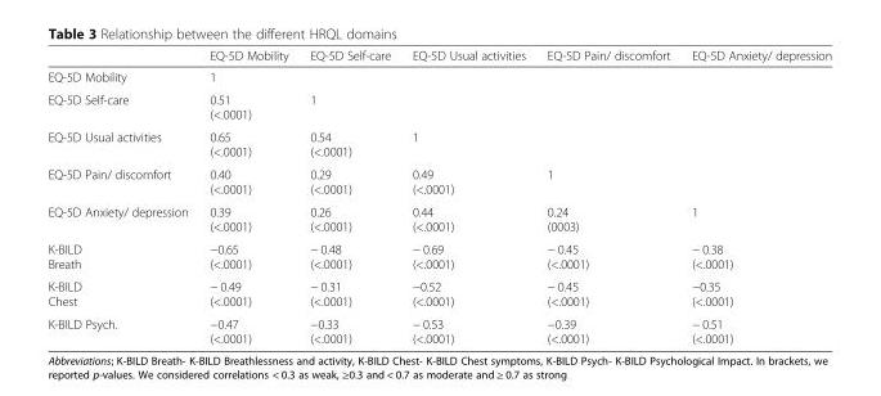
<table><thead><tr><td></td><td>EQ-5D Mobility</td><td>EQ-5D Self-care</td><td>EQ-5D Usual activities</td><td>EQ-5D Pain/ discomfort</td><td>EQ-5D Anxiety/ depression</td></tr></thead><tbody><tr><td>EQ-5D Mobility</td><td>1</td><td colspan="4"></td></tr><tr><td>EQ-5D Self-care</td><td>0.51 (&lt;.0001)</td><td>1</td><td colspan="3"></td></tr><tr><td>EQ-5D Usual activities</td><td>0.65 (&lt;.0001)</td><td>0.54 (&lt;.0001)</td><td>1</td><td colspan="2"></td></tr><tr><td>EQ-5D Pain/ discomfort</td><td>0.40 (&lt;.0001)</td><td>0.29 (&lt;.0001)</td><td>0.49 (&lt;.0001)</td><td colspan="2">1</td></tr><tr><td>EQ-5D Anxiety/ depression</td><td>0.39 (&lt;.0001)</td><td>0.26 (&lt;.0001)</td><td>0.44 (&lt;.0001)</td><td>0.24 (0003)</td><td>1</td></tr><tr><td>K-BILD Breath</td><td>−0.65 (&lt;.0001)</td><td>− 0.48 (&lt;.0001)</td><td>− 0.69 (&lt;.0001)</td><td>− 0.45 (&lt;.0001)</td><td>− 0.38 (&lt;.0001)</td></tr><tr><td>K-BILD Chest</td><td>− 0.49 (&lt;.0001)</td><td>− 0.31 (&lt;.0001)</td><td>−0.52 (&lt;.0001)</td><td>− 0.45 (&lt;.0001)</td><td>−0.35 (&lt;.0001)</td></tr><tr><td>K-BILD Psych.</td><td>−0.47 (&lt;.0001)</td><td>−0.33 (&lt;.0001)</td><td>− 0.53 (&lt;.0001)</td><td>−0.39 (&lt;.0001)</td><td>− 0.51 (&lt;.0001)</td></tr></tbody></table>